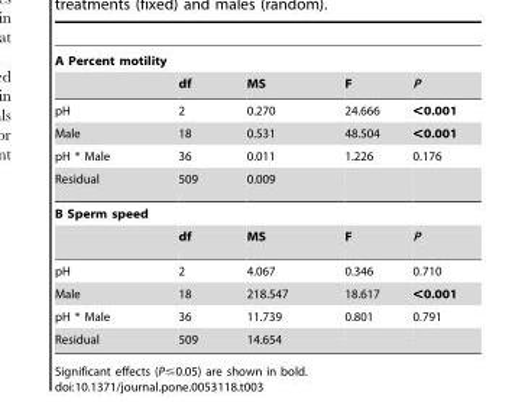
<table><thead><tr><td rowspan="2">A Percent motility</td><td rowspan="2">df</td><td rowspan="2">MS</td><td rowspan="2">F</td><td rowspan="2">P</td></tr><tr></tr></thead><tbody><tr><td>pH</td><td>2</td><td>0.270</td><td>24.666</td><td>&lt;0.001</td></tr><tr><td>Male</td><td>18</td><td>0.531</td><td>48.504</td><td>&lt;0.001</td></tr><tr><td>pH * Male</td><td>36</td><td>0.011</td><td>1.226</td><td>0.176</td></tr><tr><td>Residual</td><td>509</td><td>0.009</td><td></td><td></td></tr><tr><td colspan="5">B Sperm speed</td></tr><tr><td></td><td>df</td><td>MS</td><td>F</td><td>P</td></tr><tr><td>pH</td><td>2</td><td>4.067</td><td>0.346</td><td>0.710</td></tr><tr><td>Male</td><td>18</td><td>218.547</td><td>18.617</td><td>&lt;0.001</td></tr><tr><td>pH * Male</td><td>36</td><td>11.739</td><td>0.801</td><td>0.791</td></tr><tr><td>Residual</td><td>509</td><td>14.654</td><td></td><td></td></tr></tbody></table>